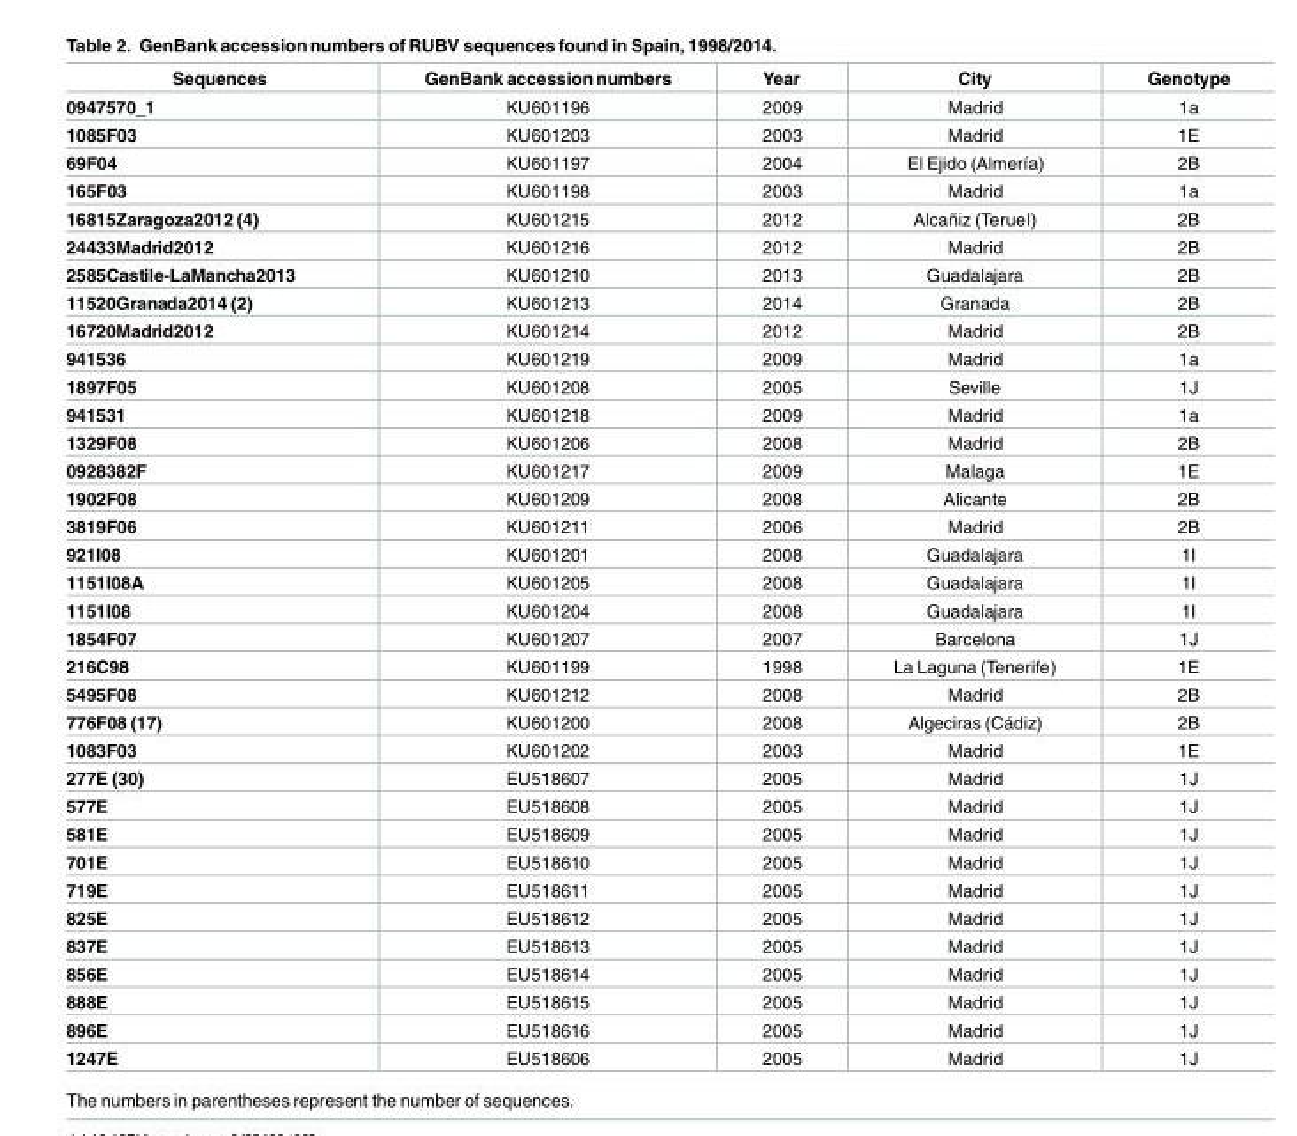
<table><thead><tr><td>Sequences</td><td>GenBank accession numbers</td><td>Year</td><td>City</td><td>Genotype</td></tr></thead><tbody><tr><td>0947570_1</td><td>KU601196</td><td>2009</td><td>Madrid</td><td>1a</td></tr><tr><td>1085F03</td><td>KU601203</td><td>2003</td><td>Madrid</td><td>1E</td></tr><tr><td>69F04</td><td>KU601197</td><td>2004</td><td>El Ejido (Almería)</td><td>2B</td></tr><tr><td>165F03</td><td>KU601198</td><td>2003</td><td>Madrid</td><td>1a</td></tr><tr><td>16815Zaragoza2012 (4)</td><td>KU601215</td><td>2012</td><td>Alcañiz (Teruel)</td><td>2B</td></tr><tr><td>24433Madrid2012</td><td>KU601216</td><td>2012</td><td>Madrid</td><td>2B</td></tr><tr><td>2585Castile-LaMancha2013</td><td>KU601210</td><td>2013</td><td>Guadalajara</td><td>2B</td></tr><tr><td>11520Granada2014 (2)</td><td>KU601213</td><td>2014</td><td>Granada</td><td>2B</td></tr><tr><td>16720Madrid2012</td><td>KU601214</td><td>2012</td><td>Madrid</td><td>2B</td></tr><tr><td>941536</td><td>KU601219</td><td>2009</td><td>Madrid</td><td>1a</td></tr><tr><td>1897F05</td><td>KU601208</td><td>2005</td><td>Seville</td><td>1J</td></tr><tr><td>941531</td><td>KU601218</td><td>2009</td><td>Madrid</td><td>1a</td></tr><tr><td>1329F08</td><td>KU601206</td><td>2008</td><td>Madrid</td><td>2B</td></tr><tr><td>0928382F</td><td>KU601217</td><td>2009</td><td>Malaga</td><td>1E</td></tr><tr><td>1902F08</td><td>KU601209</td><td>2008</td><td>Alicante</td><td>2B</td></tr><tr><td>3819F06</td><td>KU601211</td><td>2006</td><td>Madrid</td><td>2B</td></tr><tr><td>921I08</td><td>KU601201</td><td>2008</td><td>Guadalajara</td><td>1I</td></tr><tr><td>1151I08A</td><td>KU601205</td><td>2008</td><td>Guadalajara</td><td>1I</td></tr><tr><td>1151I08</td><td>KU601204</td><td>2008</td><td>Guadalajara</td><td>1I</td></tr><tr><td>1854F07</td><td>KU601207</td><td>2007</td><td>Barcelona</td><td>1J</td></tr><tr><td>216C98</td><td>KU601199</td><td>1998</td><td>La Laguna (Tenerife)</td><td>1E</td></tr><tr><td>5495F08</td><td>KU601212</td><td>2008</td><td>Madrid</td><td>2B</td></tr><tr><td>776F08 (17)</td><td>KU601200</td><td>2008</td><td>Algeciras (Cádiz)</td><td>2B</td></tr><tr><td>1083F03</td><td>KU601202</td><td>2003</td><td>Madrid</td><td>1E</td></tr><tr><td>277E (30)</td><td>EU518607</td><td>2005</td><td>Madrid</td><td>1J</td></tr><tr><td>577E</td><td>EU518608</td><td>2005</td><td>Madrid</td><td>1J</td></tr><tr><td>581E</td><td>EU518609</td><td>2005</td><td>Madrid</td><td>1J</td></tr><tr><td>701E</td><td>EU518610</td><td>2005</td><td>Madrid</td><td>1J</td></tr><tr><td>719E</td><td>EU518611</td><td>2005</td><td>Madrid</td><td>1J</td></tr><tr><td>825E</td><td>EU518612</td><td>2005</td><td>Madrid</td><td>1J</td></tr><tr><td>837E</td><td>EU518613</td><td>2005</td><td>Madrid</td><td>1J</td></tr><tr><td>856E</td><td>EU518614</td><td>2005</td><td>Madrid</td><td>1J</td></tr><tr><td>888E</td><td>EU518615</td><td>2005</td><td>Madrid</td><td>1J</td></tr><tr><td>896E</td><td>EU518616</td><td>2005</td><td>Madrid</td><td>1J</td></tr><tr><td>1247E</td><td>EU518606</td><td>2005</td><td>Madrid</td><td>1J</td></tr></tbody></table>